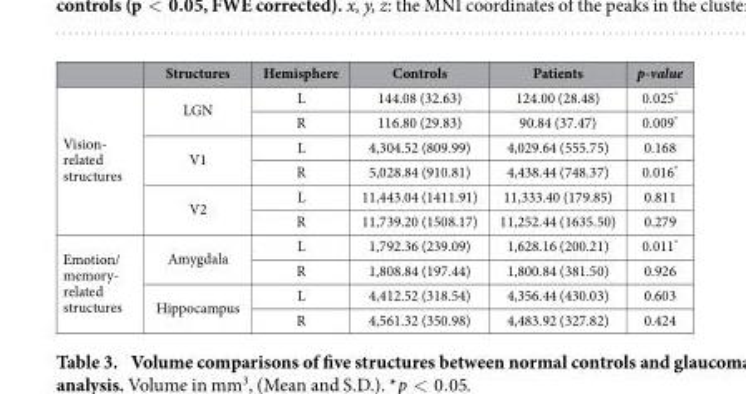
<table><thead><tr><td></td><td>Structures</td><td>Hemisphere</td><td>Controls</td><td>Patients</td><td>p-value</td></tr></thead><tbody><tr><td rowspan="6">Vision- related structures</td><td rowspan="2">LGN</td><td>L</td><td>144.08 (32.63)</td><td>124.00 (28.48)</td><td>0.025*</td></tr><tr><td>R</td><td>116.80 (29.83)</td><td>90.84 (37.47)</td><td>0.009*</td></tr><tr><td rowspan="2">V1</td><td>L</td><td>4,304.52 (809.99)</td><td>4,029.64 (555.75)</td><td>0.168</td></tr><tr><td>R</td><td>5,028.84 (910.81)</td><td>4,438.44 (748.37)</td><td>0.016*</td></tr><tr><td rowspan="2">V2</td><td>L</td><td>11,443.04 (1411.91)</td><td>11,333.40 (179.85)</td><td>0.811</td></tr><tr><td>R</td><td>11,739.20 (1508.17)</td><td>11,252.44 (1635.50)</td><td>0.279</td></tr><tr><td rowspan="4">Emotion/ memory- related structures</td><td rowspan="2">Amygdala</td><td>L</td><td>1,792.36 (239.09)</td><td>1,628.16 (200.21)</td><td>0.011*</td></tr><tr><td>R</td><td>1,808.84 (197.44)</td><td>1,800.84 (381.50)</td><td>0.926</td></tr><tr><td rowspan="2">Hippocampus</td><td>L</td><td>4,412.52 (318.54)</td><td>4,356.44 (430.03)</td><td>0.603</td></tr><tr><td>R</td><td>4,561.32 (350.98)</td><td>4,483.92 (327.82)</td><td>0.424</td></tr></tbody></table>